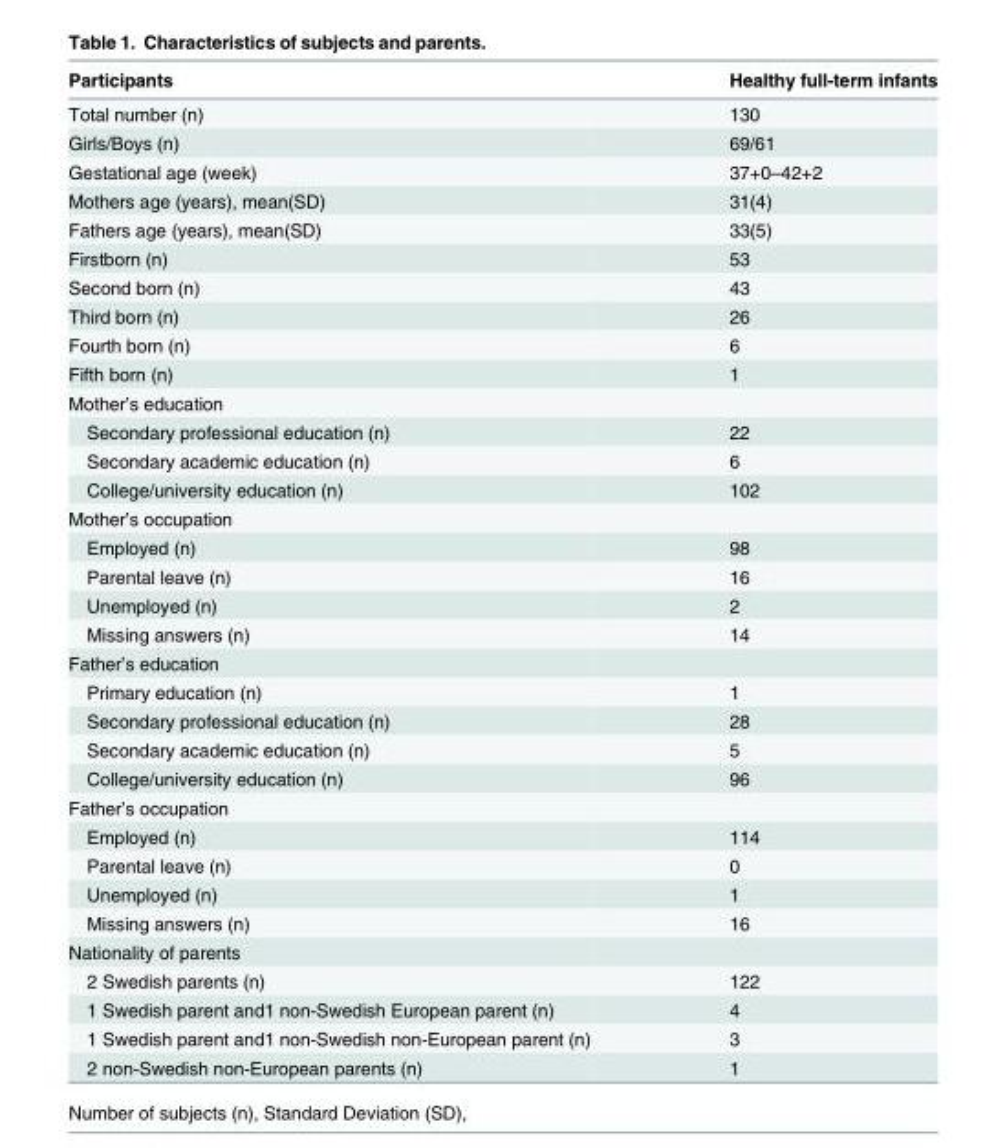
<table><thead><tr><td>Participants</td><td>Healthy full-term infants</td></tr></thead><tbody><tr><td>Total number (n)</td><td>130</td></tr><tr><td>Girls/Boys (n)</td><td>69/61</td></tr><tr><td>Gestational age (week)</td><td>37+0–42+2</td></tr><tr><td>Mothers age (years), mean(SD)</td><td>31(4)</td></tr><tr><td>Fathers age (years), mean(SD)</td><td>33(5)</td></tr><tr><td>Firstborn (n)</td><td>53</td></tr><tr><td>Second born (n)</td><td>43</td></tr><tr><td>Third born (n)</td><td>26</td></tr><tr><td>Fourth born (n)</td><td>6</td></tr><tr><td>Fifth born (n)</td><td>1</td></tr><tr><td colspan="2">Mother’s education</td></tr><tr><td>Secondary professional education (n)</td><td>22</td></tr><tr><td>Secondary academic education (n)</td><td>6</td></tr><tr><td>College/university education (n)</td><td>102</td></tr><tr><td colspan="2">Mother’s occupation</td></tr><tr><td>Employed (n)</td><td>98</td></tr><tr><td>Parental leave (n)</td><td>16</td></tr><tr><td>Unemployed (n)</td><td>2</td></tr><tr><td>Missing answers (n)</td><td>14</td></tr><tr><td colspan="2">Father’s education</td></tr><tr><td>Primary education (n)</td><td>1</td></tr><tr><td>Secondary professional education (n)</td><td>28</td></tr><tr><td>Secondary academic education (n)</td><td>5</td></tr><tr><td>College/university education (n)</td><td>96</td></tr><tr><td colspan="2">Father’s occupation</td></tr><tr><td>Employed (n)</td><td>114</td></tr><tr><td>Parental leave (n)</td><td>0</td></tr><tr><td>Unemployed (n)</td><td>1</td></tr><tr><td>Missing answers (n)</td><td>16</td></tr><tr><td colspan="2">Nationality of parents</td></tr><tr><td>2 Swedish parents (n)</td><td>122</td></tr><tr><td>1 Swedish parent and1 non-Swedish European parent (n)</td><td>4</td></tr><tr><td>1 Swedish parent and1 non-Swedish non-European parent (n)</td><td>3</td></tr><tr><td>2 non-Swedish non-European parents (n)</td><td>1</td></tr></tbody></table>